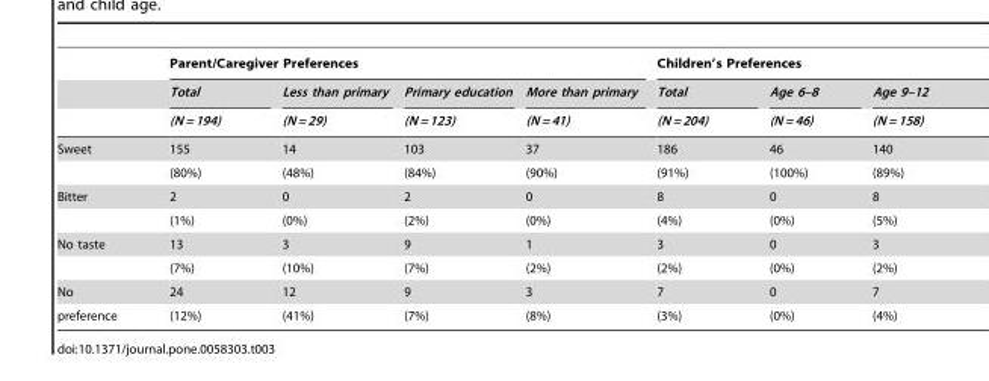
<table><thead><tr><td rowspan="3"></td><td colspan="4">Parent/Caregiver Preferences</td><td colspan="3">Children’s Preferences</td></tr><tr><td rowspan="2">Total (N = 194)</td><td rowspan="2">Less than primary (N = 29)</td><td rowspan="2">Primary education (N = 123)</td><td rowspan="2">More than primary (N = 41)</td><td rowspan="2">Total (N = 204)</td><td rowspan="2">Age 6–8 (N = 46)</td><td rowspan="2">Age 9–12 (N = 158)</td></tr><tr></tr></thead><tbody><tr><td rowspan="2">Sweet</td><td>155</td><td>14</td><td>103</td><td>37</td><td>186</td><td>46</td><td>140</td></tr><tr><td>(80%)</td><td>(48%)</td><td>(84%)</td><td>(90%)</td><td>(91%)</td><td>(100%)</td><td>(89%)</td></tr><tr><td rowspan="2">Bitter</td><td>2</td><td>0</td><td>2</td><td>0</td><td>8</td><td>0</td><td>8</td></tr><tr><td>(1%)</td><td>(0%)</td><td>(2%)</td><td>(0%)</td><td>(4%)</td><td>(0%)</td><td>(5%)</td></tr><tr><td rowspan="2">No taste</td><td>13</td><td>3</td><td>9</td><td>1</td><td>3</td><td>0</td><td>3</td></tr><tr><td>(7%)</td><td>(10%)</td><td>(7%)</td><td>(2%)</td><td>(2%)</td><td>(0%)</td><td>(2%)</td></tr><tr><td>No</td><td>24</td><td>12</td><td>9</td><td>3</td><td>7</td><td>0</td><td>7</td></tr><tr><td>preference</td><td>(12%)</td><td>(41%)</td><td>(7%)</td><td>(8%)</td><td>(3%)</td><td>(0%)</td><td>(4%)</td></tr></tbody></table>